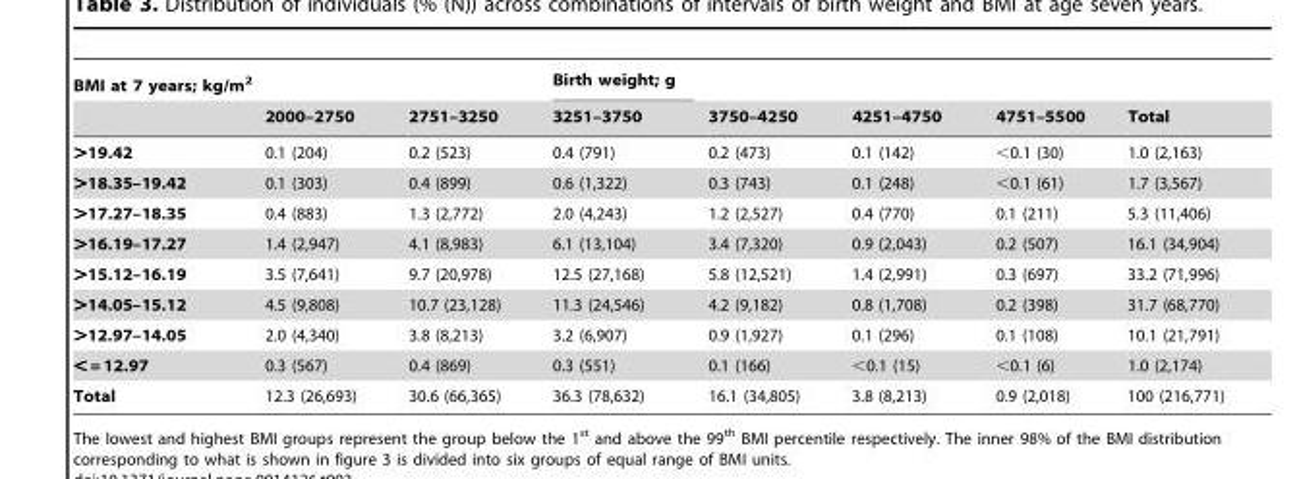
<table><thead><tr><td rowspan="2">BMI at 7 years; kg/m<sup>2</sup></td><td rowspan="2">2000–2750</td><td rowspan="2">2751–3250</td><td rowspan="2">Birth weight; g 3251–3750</td><td rowspan="2">3750–4250</td><td rowspan="2">4251–4750</td><td rowspan="2">4751–5500</td><td rowspan="2">Total</td></tr><tr></tr></thead><tbody><tr><td>&gt;19.42</td><td>0.1 (204)</td><td>0.2 (523)</td><td>0.4 (791)</td><td>0.2 (473)</td><td>0.1 (142)</td><td>&lt;0.1 (30)</td><td>1.0 (2,163)</td></tr><tr><td>&gt;18.35–19.42</td><td>0.1 (303)</td><td>0.4 (899)</td><td>0.6 (1,322)</td><td>0.3 (743)</td><td>0.1 (248)</td><td>&lt;0.1 (61)</td><td>1.7 (3,567)</td></tr><tr><td>&gt;17.27–18.35</td><td>0.4 (883)</td><td>1.3 (2,772)</td><td>2.0 (4,243)</td><td>1.2 (2,527)</td><td>0.4 (770)</td><td>0.1 (211)</td><td>5.3 (11,406)</td></tr><tr><td>&gt;16.19–17.27</td><td>1.4 (2,947)</td><td>4.1 (8,983)</td><td>6.1 (13,104)</td><td>3.4 (7,320)</td><td>0.9 (2,043)</td><td>0.2 (507)</td><td>16.1 (34,904)</td></tr><tr><td>&gt;15.12–16.19</td><td>3.5 (7,641)</td><td>9.7 (20,978)</td><td>12.5 (27,168)</td><td>5.8 (12,521)</td><td>1.4 (2,991)</td><td>0.3 (697)</td><td>33.2 (71,996)</td></tr><tr><td>&gt;14.05–15.12</td><td>4.5 (9,808)</td><td>10.7 (23,128)</td><td>11.3 (24,546)</td><td>4.2 (9,182)</td><td>0.8 (1,708)</td><td>0.2 (398)</td><td>31.7 (68,770)</td></tr><tr><td>&gt;12.97–14.05</td><td>2.0 (4,340)</td><td>3.8 (8,213)</td><td>3.2 (6,907)</td><td>0.9 (1,927)</td><td>0.1 (296)</td><td>0.1 (108)</td><td>10.1 (21,791)</td></tr><tr><td>&lt; = 12.97</td><td>0.3 (567)</td><td>0.4 (869)</td><td>0.3 (551)</td><td>0.1 (166)</td><td>&lt;0.1 (15)</td><td>&lt;0.1 (6)</td><td>1.0 (2,174)</td></tr><tr><td>Total</td><td>12.3 (26,693)</td><td>30.6 (66,365)</td><td>36.3 (78,632)</td><td>16.1 (34,805)</td><td>3.8 (8,213)</td><td>0.9 (2,018)</td><td>100 (216,771)</td></tr></tbody></table>